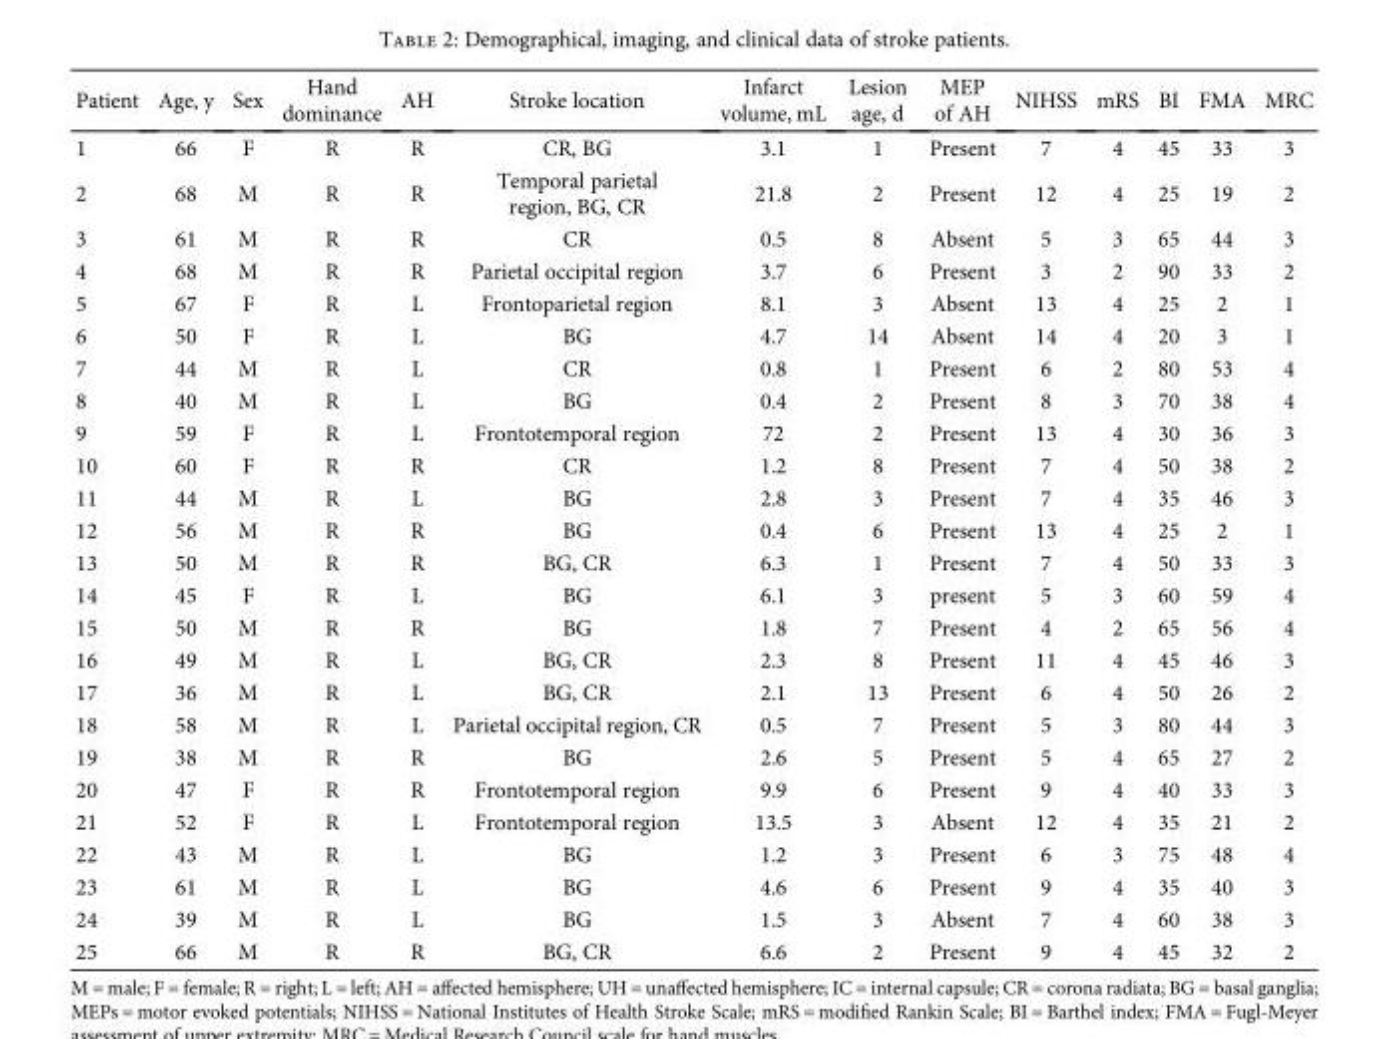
<table><thead><tr><td>Patient</td><td>Age, y</td><td>Sex</td><td>Hand dominance</td><td>AH</td><td>Stroke location</td><td>Infarct volume, mL</td><td>Lesion age, d</td><td>MEP of AH</td><td>NIHSS</td><td>mRS</td><td>BI</td><td>FMA</td><td>MRC</td></tr></thead><tbody><tr><td>1</td><td>66</td><td>F</td><td>R</td><td>R</td><td>CR, BG</td><td>3.1</td><td>1</td><td>Present</td><td>7</td><td>4</td><td>45</td><td>33</td><td>3</td></tr><tr><td>2</td><td>68</td><td>M</td><td>R</td><td>R</td><td>Temporal parietal region, BG, CR</td><td>21.8</td><td>2</td><td>Present</td><td>12</td><td>4</td><td>25</td><td>19</td><td>2</td></tr><tr><td>3</td><td>61</td><td>M</td><td>R</td><td>R</td><td>CR</td><td>0.5</td><td>8</td><td>Absent</td><td>5</td><td>3</td><td>65</td><td>44</td><td>3</td></tr><tr><td>4</td><td>68</td><td>M</td><td>R</td><td>R</td><td>Parietal occipital region</td><td>3.7</td><td>6</td><td>Present</td><td>3</td><td>2</td><td>90</td><td>33</td><td>2</td></tr><tr><td>5</td><td>67</td><td>F</td><td>R</td><td>L</td><td>Frontoparietal region</td><td>8.1</td><td>3</td><td>Absent</td><td>13</td><td>4</td><td>25</td><td>2</td><td>1</td></tr><tr><td>6</td><td>50</td><td>F</td><td>R</td><td>L</td><td>BG</td><td>4.7</td><td>14</td><td>Absent</td><td>14</td><td>4</td><td>20</td><td>3</td><td>1</td></tr><tr><td>7</td><td>44</td><td>M</td><td>R</td><td>L</td><td>CR</td><td>0.8</td><td>1</td><td>Present</td><td>6</td><td>2</td><td>80</td><td>53</td><td>4</td></tr><tr><td>8</td><td>40</td><td>M</td><td>R</td><td>L</td><td>BG</td><td>0.4</td><td>2</td><td>Present</td><td>8</td><td>3</td><td>70</td><td>38</td><td>4</td></tr><tr><td>9</td><td>59</td><td>F</td><td>R</td><td>L</td><td>Frontotemporal region</td><td>72</td><td>2</td><td>Present</td><td>13</td><td>4</td><td>30</td><td>36</td><td>3</td></tr><tr><td>10</td><td>60</td><td>F</td><td>R</td><td>R</td><td>CR</td><td>1.2</td><td>8</td><td>Present</td><td>7</td><td>4</td><td>50</td><td>38</td><td>2</td></tr><tr><td>11</td><td>44</td><td>M</td><td>R</td><td>L</td><td>BG</td><td>2.8</td><td>3</td><td>Present</td><td>7</td><td>4</td><td>35</td><td>46</td><td>3</td></tr><tr><td>12</td><td>56</td><td>M</td><td>R</td><td>R</td><td>BG</td><td>0.4</td><td>6</td><td>Present</td><td>13</td><td>4</td><td>25</td><td>2</td><td>1</td></tr><tr><td>13</td><td>50</td><td>M</td><td>R</td><td>R</td><td>BG, CR</td><td>6.3</td><td>1</td><td>Present</td><td>7</td><td>4</td><td>50</td><td>33</td><td>3</td></tr><tr><td>14</td><td>45</td><td>F</td><td>R</td><td>L</td><td>BG</td><td>6.1</td><td>3</td><td>present</td><td>5</td><td>3</td><td>60</td><td>59</td><td>4</td></tr><tr><td>15</td><td>50</td><td>M</td><td>R</td><td>R</td><td>BG</td><td>1.8</td><td>7</td><td>Present</td><td>4</td><td>2</td><td>65</td><td>56</td><td>4</td></tr><tr><td>16</td><td>49</td><td>M</td><td>R</td><td>L</td><td>BG, CR</td><td>2.3</td><td>8</td><td>Present</td><td>11</td><td>4</td><td>45</td><td>46</td><td>3</td></tr><tr><td>17</td><td>36</td><td>M</td><td>R</td><td>L</td><td>BG, CR</td><td>2.1</td><td>13</td><td>Present</td><td>6</td><td>4</td><td>50</td><td>26</td><td>2</td></tr><tr><td>18</td><td>58</td><td>M</td><td>R</td><td>L</td><td>Parietal occipital region, CR</td><td>0.5</td><td>7</td><td>Present</td><td>5</td><td>3</td><td>80</td><td>44</td><td>3</td></tr><tr><td>19</td><td>38</td><td>M</td><td>R</td><td>R</td><td>BG</td><td>2.6</td><td>5</td><td>Present</td><td>5</td><td>4</td><td>65</td><td>27</td><td>2</td></tr><tr><td>20</td><td>47</td><td>F</td><td>R</td><td>R</td><td>Frontotemporal region</td><td>9.9</td><td>6</td><td>Present</td><td>9</td><td>4</td><td>40</td><td>33</td><td>3</td></tr><tr><td>21</td><td>52</td><td>F</td><td>R</td><td>L</td><td>Frontotemporal region</td><td>13.5</td><td>3</td><td>Absent</td><td>12</td><td>4</td><td>35</td><td>21</td><td>2</td></tr><tr><td>22</td><td>43</td><td>M</td><td>R</td><td>L</td><td>BG</td><td>1.2</td><td>3</td><td>Present</td><td>6</td><td>3</td><td>75</td><td>48</td><td>4</td></tr><tr><td>23</td><td>61</td><td>M</td><td>R</td><td>L</td><td>BG</td><td>4.6</td><td>6</td><td>Present</td><td>9</td><td>4</td><td>35</td><td>40</td><td>3</td></tr><tr><td>24</td><td>39</td><td>M</td><td>R</td><td>L</td><td>BG</td><td>1.5</td><td>3</td><td>Absent</td><td>7</td><td>4</td><td>60</td><td>38</td><td>3</td></tr><tr><td>25</td><td>66</td><td>M</td><td>R</td><td>R</td><td>BG, CR</td><td>6.6</td><td>2</td><td>Present</td><td>9</td><td>4</td><td>45</td><td>32</td><td>2</td></tr></tbody></table>